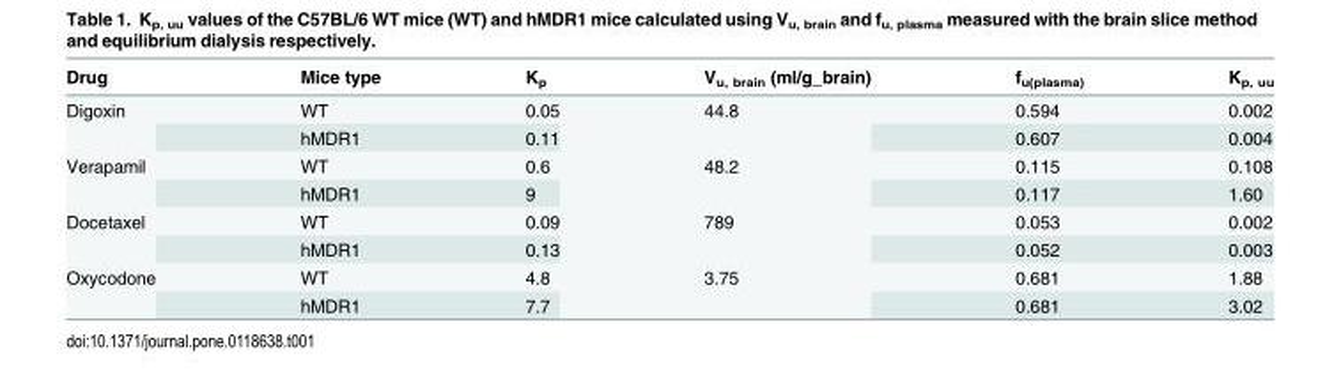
<table><thead><tr><td>Drug</td><td>Mice type</td><td>K<sub>p</sub></td><td>V<sub>u, brain</sub> (ml/g_brain)</td><td>f<sub>u(plasma)</sub></td><td>K<sub>p, uu</sub></td></tr></thead><tbody><tr><td rowspan="2">Digoxin</td><td>WT</td><td>0.05</td><td rowspan="2">44.8</td><td>0.594</td><td>0.002</td></tr><tr><td>hMDR1</td><td>0.11</td><td>0.607</td><td>0.004</td></tr><tr><td rowspan="2">Verapamil</td><td>WT</td><td>0.6</td><td rowspan="2">48.2</td><td>0.115</td><td>0.108</td></tr><tr><td>hMDR1</td><td>9</td><td>0.117</td><td>1.60</td></tr><tr><td rowspan="2">Docetaxel</td><td>WT</td><td>0.09</td><td rowspan="2">789</td><td>0.053</td><td>0.002</td></tr><tr><td>hMDR1</td><td>0.13</td><td>0.052</td><td>0.003</td></tr><tr><td rowspan="2">Oxycodone</td><td>WT</td><td>4.8</td><td rowspan="2">3.75</td><td>0.681</td><td>1.88</td></tr><tr><td>hMDR1</td><td>7.7</td><td>0.681</td><td>3.02</td></tr></tbody></table>